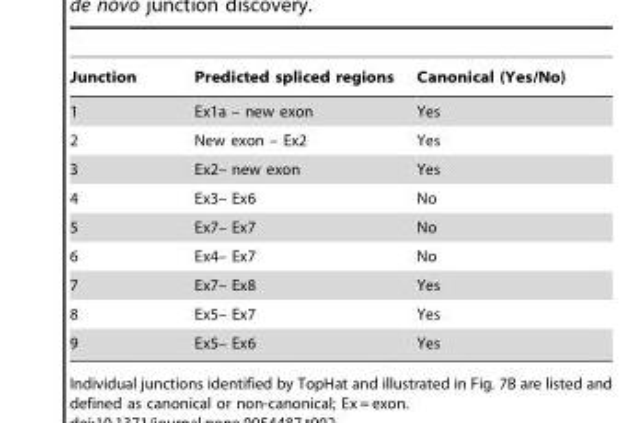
<table><thead><tr><td>Junction</td><td>Predicted spliced regions</td><td>Canonical (Yes/No)</td></tr></thead><tbody><tr><td>1</td><td>Ex1a – new exon</td><td>Yes</td></tr><tr><td>2</td><td>New exon – Ex2</td><td>Yes</td></tr><tr><td>3</td><td>Ex2– new exon</td><td>Yes</td></tr><tr><td>4</td><td>Ex3– Ex6</td><td>No</td></tr><tr><td>5</td><td>Ex7– Ex7</td><td>No</td></tr><tr><td>6</td><td>Ex4– Ex7</td><td>No</td></tr><tr><td>7</td><td>Ex7– Ex8</td><td>Yes</td></tr><tr><td>8</td><td>Ex5– Ex7</td><td>Yes</td></tr><tr><td>9</td><td>Ex5– Ex6</td><td>Yes</td></tr></tbody></table>